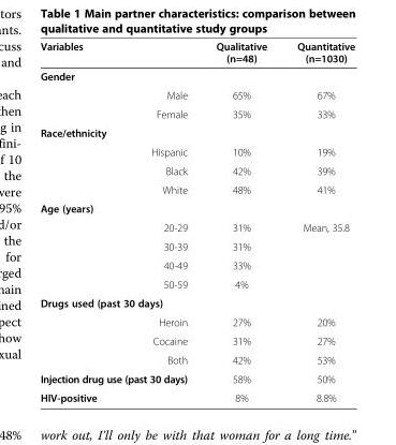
<table><thead><tr><td>Variables</td><td>Qualitative (n=48)</td><td>Quantitative (n=1030)</td></tr></thead><tbody><tr><td colspan="3">Gender</td></tr><tr><td>Male</td><td>65%</td><td>67%</td></tr><tr><td>Female</td><td>35%</td><td>33%</td></tr><tr><td colspan="3">Race/ethnicity</td></tr><tr><td>Hispanic</td><td>10%</td><td>19%</td></tr><tr><td>Black</td><td>42%</td><td>39%</td></tr><tr><td>White</td><td>48%</td><td>41%</td></tr><tr><td colspan="3">Age (years)</td></tr><tr><td>20-29</td><td>31%</td><td rowspan="4">Mean, 35.8</td></tr><tr><td>30-39</td><td>31%</td></tr><tr><td>40-49</td><td>33%</td></tr><tr><td>50-59</td><td>4%</td></tr><tr><td colspan="3">Drugs used (past 30 days)</td></tr><tr><td>Heroin</td><td>27%</td><td>20%</td></tr><tr><td>Cocaine</td><td>31%</td><td>27%</td></tr><tr><td>Both</td><td>42%</td><td>53%</td></tr><tr><td>Injection drug use (past 30 days)</td><td>58%</td><td>50%</td></tr><tr><td>HIV-positive</td><td>8%</td><td>8.8%</td></tr></tbody></table>